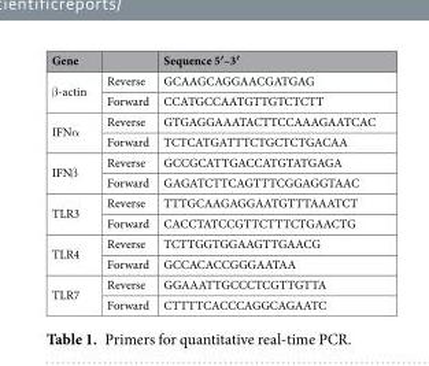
<table><thead><tr><td>Gene</td><td></td><td>Sequence 5′–3′</td></tr></thead><tbody><tr><td rowspan="2">β-actin</td><td>Reverse</td><td>GCAAGCAGGAACGATGAG</td></tr><tr><td>Forward</td><td>CCATGCCAATGTTGTCTCTT</td></tr><tr><td rowspan="2">IFNα</td><td>Reverse</td><td>GTGAGGAAATACTTCCAAAGAATCAC</td></tr><tr><td>Forward</td><td>TCTCATGATTTCTGCTCTGACAA</td></tr><tr><td rowspan="2">IFNβ</td><td>Reverse</td><td>GCCGCATTGACCATGTATGAGA</td></tr><tr><td>Forward</td><td>GAGATCTTCAGTTTCGGAGGTAAC</td></tr><tr><td rowspan="2">TLR3</td><td>Reverse</td><td>TTTGCAAGAGGAATGTTTAAATCT</td></tr><tr><td>Forward</td><td>CACCTATCCGTTCTTTCTGAACTG</td></tr><tr><td rowspan="2">TLR4</td><td>Reverse</td><td>TCTTGGTGGAAGTTGAACG</td></tr><tr><td>Forward</td><td>GCCACACCGGGAATAA</td></tr><tr><td rowspan="2">TLR7</td><td>Reverse</td><td>GGAAATTGCCCTCGTTGTTA</td></tr><tr><td>Forward</td><td>CTTTTCACCCAGGCAGAATC</td></tr></tbody></table>